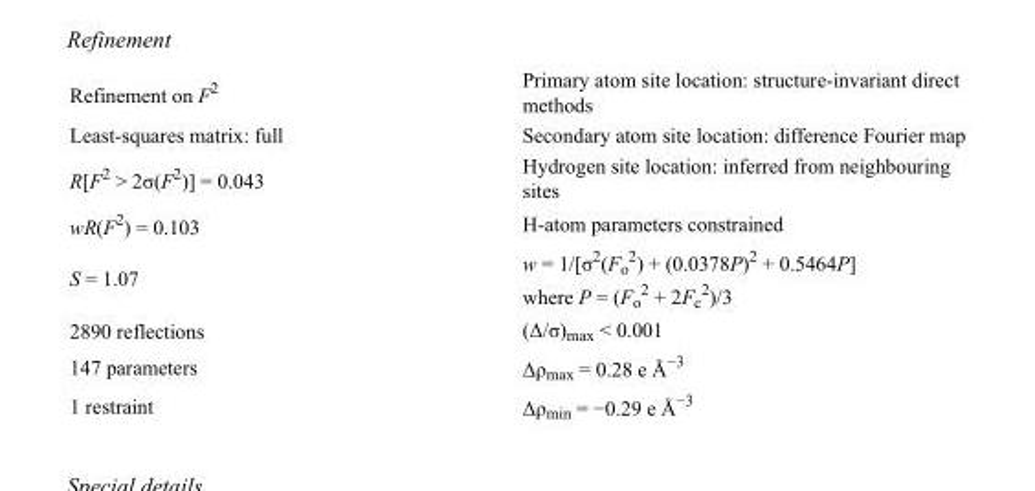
<table><tbody><tr><td>Refinement on F<sup>2</sup></td><td>Primary atom site location: structure-invariant direct methods</td></tr><tr><td>Least-squares matrix: full</td><td>Secondary atom site location: difference Fourier map</td></tr><tr><td>R[F<sup>2</sup> &gt; 2σ(F<sup>2</sup>)] = 0.043</td><td>Hydrogen site location: inferred from neighbouring sites</td></tr><tr><td>wR(F<sup>2</sup>) = 0.103</td><td>H-atom parameters constrained</td></tr><tr><td>S = 1.07</td><td>w = 1/[σ<sup>2</sup>(F<sub>o</sub> <sup>2</sup>) + (0.0378P)<sup>2</sup> + 0.5464P] where P = (F<sub>o</sub> <sup>2</sup> + 2F<sub>c</sub> <sup>2</sup>)/3</td></tr><tr><td>2890 reflections</td><td>(Δ/σ)<sub>max</sub> &lt; 0.001</td></tr><tr><td>147 parameters</td><td>Δρ<sub>max</sub> = 0.28 e Å<sup>−3</sup></td></tr><tr><td>1 restraint</td><td>Δρ<sub>min</sub> = −0.29 e Å<sup>−3</sup></td></tr></tbody></table>